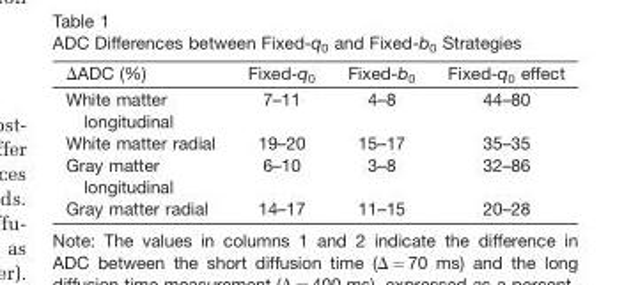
<table><thead><tr><td>ΔADC (%)</td><td>Fixed-q<sub>0</sub></td><td>Fixed-b<sub>0</sub></td><td>Fixed-q<sub>0</sub> effect</td></tr></thead><tbody><tr><td>White matter longitudinal</td><td>7–11</td><td>4–8</td><td>44–80</td></tr><tr><td>White matter radial</td><td>19–20</td><td>15–17</td><td>35–35</td></tr><tr><td>Gray matter longitudinal</td><td>6–10</td><td>3–8</td><td>32–86</td></tr><tr><td>Gray matter radial</td><td>14–17</td><td>11–15</td><td>20–28</td></tr></tbody></table>